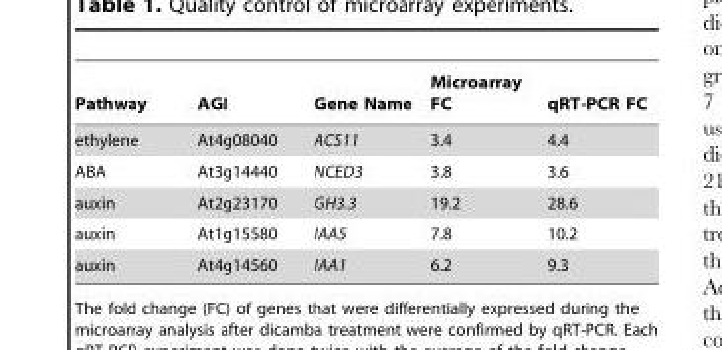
<table><thead><tr><td>Pathway</td><td>AGI</td><td>Gene Name</td><td>Microarray FC</td><td>qRT-PCR FC</td></tr></thead><tbody><tr><td>ethylene</td><td>At4g08040</td><td>ACS11</td><td>3.4</td><td>4.4</td></tr><tr><td>ABA</td><td>At3g14440</td><td>NCED3</td><td>3.8</td><td>3.6</td></tr><tr><td>auxin</td><td>At2g23170</td><td>GH3.3</td><td>19.2</td><td>28.6</td></tr><tr><td>auxin</td><td>At1g15580</td><td>IAA5</td><td>7.8</td><td>10.2</td></tr><tr><td>auxin</td><td>At4g14560</td><td>IAA1</td><td>6.2</td><td>9.3</td></tr></tbody></table>